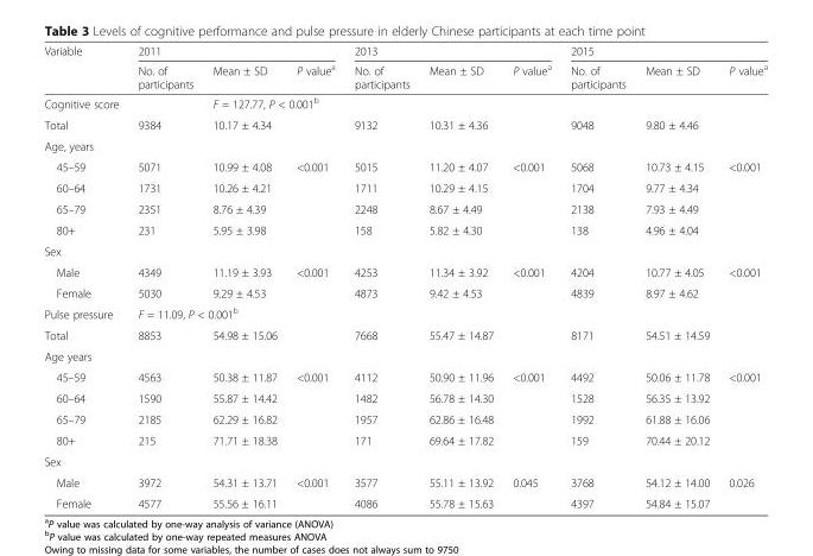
<table><thead><tr><td rowspan="2">Variable</td><td colspan="3">2011</td><td colspan="3">2013</td><td colspan="3">2015</td></tr><tr><td>No. of participants</td><td>Mean ± SD</td><td>P value<sup>a</sup></td><td>No. of participants</td><td>Mean ± SD</td><td>P value<sup>a</sup></td><td>No. of participants</td><td>Mean ± SD</td><td>P value<sup>a</sup></td></tr></thead><tbody><tr><td>Cognitive score</td><td></td><td colspan="8">F = 127.77, P &lt; 0.001<sup>b</sup></td></tr><tr><td>Total</td><td>9384</td><td>10.17 ± 4.34</td><td></td><td>9132</td><td>10.31 ± 4.36</td><td></td><td>9048</td><td>9.80 ± 4.46</td><td></td></tr><tr><td colspan="10">Age, years</td></tr><tr><td>45–59</td><td>5071</td><td>10.99 ± 4.08</td><td>&lt;0.001</td><td>5015</td><td>11.20 ± 4.07</td><td>&lt;0.001</td><td>5068</td><td>10.73 ± 4.15</td><td>&lt;0.001</td></tr><tr><td>60–64</td><td>1731</td><td>10.26 ± 4.21</td><td></td><td>1711</td><td>10.29 ± 4.15</td><td></td><td>1704</td><td>9.77 ± 4.34</td><td></td></tr><tr><td>65–79</td><td>2351</td><td>8.76 ± 4.39</td><td></td><td>2248</td><td>8.67 ± 4.49</td><td></td><td>2138</td><td>7.93 ± 4.49</td><td></td></tr><tr><td>80+</td><td>231</td><td>5.95 ± 3.98</td><td></td><td>158</td><td>5.82 ± 4.30</td><td></td><td>138</td><td>4.96 ± 4.04</td><td></td></tr><tr><td colspan="10">Sex</td></tr><tr><td>Male</td><td>4349</td><td>11.19 ± 3.93</td><td rowspan="2">&lt;0.001</td><td>4253</td><td>11.34 ± 3.92</td><td>&lt;0.001</td><td>4204</td><td>10.77 ± 4.05</td><td>&lt;0.001</td></tr><tr><td>Female</td><td>5030</td><td>9.29 ± 4.53</td><td>4873</td><td>9.42 ± 4.53</td><td></td><td>4839</td><td>8.97 ± 4.62</td><td></td></tr><tr><td>Pulse pressure</td><td colspan="9">F = 11.09, P &lt; 0.001<sup>b</sup></td></tr><tr><td>Total</td><td>8853</td><td>54.98 ± 15.06</td><td></td><td>7668</td><td>55.47 ± 14.87</td><td></td><td>8171</td><td>54.51 ± 14.59</td><td></td></tr><tr><td colspan="10">Age years</td></tr><tr><td>45–59</td><td>4563</td><td>50.38 ± 11.87</td><td>&lt;0.001</td><td>4112</td><td>50.90 ± 11.96</td><td>&lt;0.001</td><td>4492</td><td>50.06 ± 11.78</td><td>&lt;0.001</td></tr><tr><td>60–64</td><td>1590</td><td>55.87 ± 14.42</td><td></td><td>1482</td><td>56.78 ± 14.30</td><td></td><td>1528</td><td>56.35 ± 13.92</td><td></td></tr><tr><td>65–79</td><td>2185</td><td>62.29 ± 16.82</td><td></td><td>1957</td><td>62.86 ± 16.48</td><td></td><td>1992</td><td>61.88 ± 16.06</td><td></td></tr><tr><td>80+</td><td>215</td><td>71.71 ± 18.38</td><td></td><td>171</td><td>69.64 ± 17.82</td><td></td><td>159</td><td>70.44 ± 20.12</td><td></td></tr><tr><td colspan="10">Sex</td></tr><tr><td>Male</td><td>3972</td><td>54.31 ± 13.71</td><td rowspan="2">&lt;0.001</td><td>3577</td><td>55.11 ± 13.92</td><td rowspan="2">0.045</td><td>3768</td><td>54.12 ± 14.00</td><td rowspan="2">0.026</td></tr><tr><td>Female</td><td>4577</td><td>55.56 ± 16.11</td><td>4086</td><td>55.78 ± 15.63</td><td>4397</td><td>54.84 ± 15.07</td></tr></tbody></table>